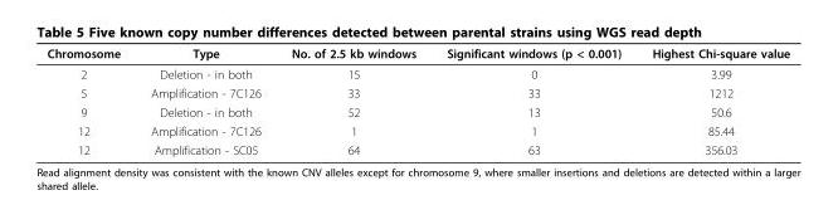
<table><thead><tr><td>Chromosome</td><td>Type</td><td>No. of 2.5 kb windows</td><td>Significant windows (p &lt; 0.001)</td><td>Highest Chi-square value</td></tr></thead><tbody><tr><td>2</td><td>Deletion - in both</td><td>15</td><td>0</td><td>3.99</td></tr><tr><td>5</td><td>Amplification - 7C126</td><td>33</td><td>33</td><td>1212</td></tr><tr><td>9</td><td>Deletion - in both</td><td>52</td><td>13</td><td>50.6</td></tr><tr><td>12</td><td>Amplification - 7C126</td><td>1</td><td>1</td><td>85.44</td></tr><tr><td>12</td><td>Amplification - SC05</td><td>64</td><td>63</td><td>356.03</td></tr></tbody></table>